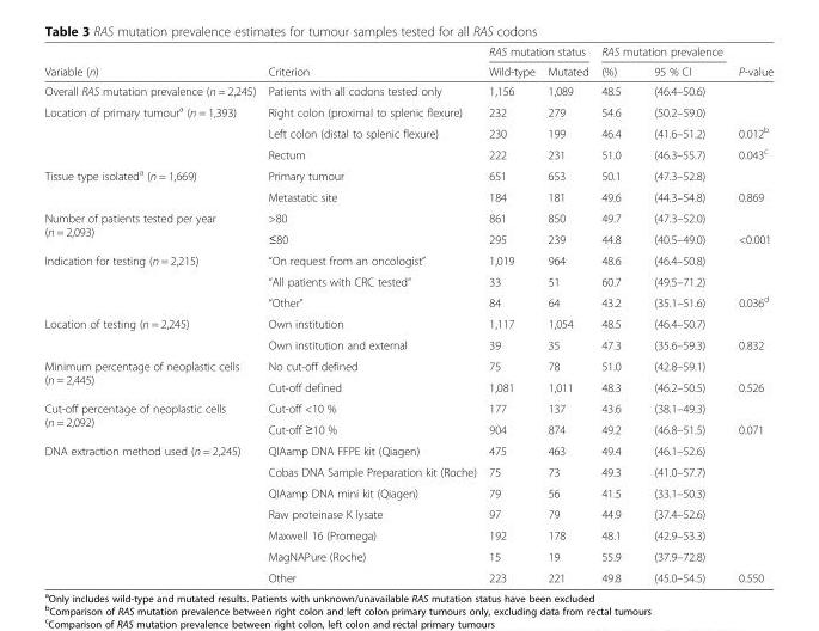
<table><thead><tr><td rowspan="2">Variable (n)</td><td rowspan="2">Criterion</td><td colspan="2">RAS mutation status</td><td colspan="2">RAS mutation prevalence</td><td rowspan="2">P-value</td></tr><tr><td>Wild-type</td><td>Mutated</td><td>(%)</td><td>95 % CI</td></tr></thead><tbody><tr><td>Overall RAS mutation prevalence (n = 2,245)</td><td>Patients with all codons tested only</td><td>1,156</td><td>1,089</td><td>48.5</td><td>(46.4–50.6)</td><td></td></tr><tr><td rowspan="3">Location of primary tumour<sup>a</sup> (n = 1,393)</td><td>Right colon (proximal to splenic flexure)</td><td>232</td><td>279</td><td>54.6</td><td>(50.2–59.0)</td><td></td></tr><tr><td>Left colon (distal to splenic flexure)</td><td>230</td><td>199</td><td>46.4</td><td>(41.6–51.2)</td><td>0.012<sup>b</sup></td></tr><tr><td>Rectum</td><td>222</td><td>231</td><td>51.0</td><td>(46.3–55.7)</td><td>0.043<sup>c</sup></td></tr><tr><td rowspan="2">Tissue type isolated<sup>a</sup> (n = 1,669)</td><td>Primary tumour</td><td>651</td><td>653</td><td>50.1</td><td>(47.3–52.8)</td><td></td></tr><tr><td>Metastatic site</td><td>184</td><td>181</td><td>49.6</td><td>(44.3–54.8)</td><td>0.869</td></tr><tr><td rowspan="2">Number of patients tested per year (n = 2,093)</td><td>&gt;80</td><td>861</td><td>850</td><td>49.7</td><td>(47.3–52.0)</td><td></td></tr><tr><td>≤80</td><td>295</td><td>239</td><td>44.8</td><td>(40.5–49.0)</td><td>&lt;0.001</td></tr><tr><td rowspan="3">Indication for testing (n = 2,215)</td><td>“On request from an oncologist”</td><td>1,019</td><td>964</td><td>48.6</td><td>(46.4–50.8)</td><td></td></tr><tr><td>“All patients with CRC tested”</td><td>33</td><td>51</td><td>60.7</td><td>(49.5–71.2)</td><td></td></tr><tr><td>“Other”</td><td>84</td><td>64</td><td>43.2</td><td>(35.1–51.6)</td><td>0.036<sup>d</sup></td></tr><tr><td rowspan="2">Location of testing (n = 2,245)</td><td>Own institution</td><td>1,117</td><td>1,054</td><td>48.5</td><td>(46.4–50.7)</td><td></td></tr><tr><td>Own institution and external</td><td>39</td><td>35</td><td>47.3</td><td>(35.6–59.3)</td><td>0.832</td></tr><tr><td rowspan="2">Minimum percentage of neoplastic cells (n = 2,445)</td><td>No cut-off defined</td><td>75</td><td>78</td><td>51.0</td><td>(42.8–59.1)</td><td></td></tr><tr><td>Cut-off defined</td><td>1,081</td><td>1,011</td><td>48.3</td><td>(46.2–50.5)</td><td>0.526</td></tr><tr><td rowspan="2">Cut-off percentage of neoplastic cells (n = 2,092)</td><td>Cut-off &lt;10 %</td><td>177</td><td>137</td><td>43.6</td><td>(38.1–49.3)</td><td></td></tr><tr><td>Cut-off ≥10 %</td><td>904</td><td>874</td><td>49.2</td><td>(46.8–51.5)</td><td>0.071</td></tr><tr><td rowspan="7">DNA extraction method used (n = 2,245)</td><td>QIAamp DNA FFPE kit (Qiagen)</td><td>475</td><td>463</td><td>49.4</td><td>(46.1–52.6)</td><td></td></tr><tr><td>Cobas DNA Sample Preparation kit (Roche)</td><td>75</td><td>73</td><td>49.3</td><td>(41.0–57.7)</td><td></td></tr><tr><td>QIAamp DNA mini kit (Qiagen)</td><td>79</td><td>56</td><td>41.5</td><td>(33.1–50.3)</td><td></td></tr><tr><td>Raw proteinase K lysate</td><td>97</td><td>79</td><td>44.9</td><td>(37.4–52.6)</td><td></td></tr><tr><td>Maxwell 16 (Promega)</td><td>192</td><td>178</td><td>48.1</td><td>(42.9–53.3)</td><td></td></tr><tr><td>MagNAPure (Roche)</td><td>15</td><td>19</td><td>55.9</td><td>(37.9–72.8)</td><td></td></tr><tr><td>Other</td><td>223</td><td>221</td><td>49.8</td><td>(45.0–54.5)</td><td>0.550</td></tr></tbody></table>